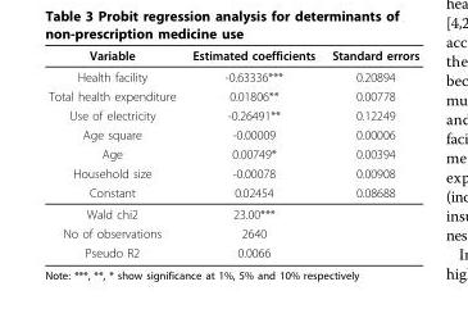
<table><thead><tr><td>Variable</td><td>Estimated coefficients</td><td>Standard errors</td></tr></thead><tbody><tr><td>Health facility</td><td>-0.63336***</td><td>0.20894</td></tr><tr><td>Total health expenditure</td><td>0.01806**</td><td>0.00778</td></tr><tr><td>Use of electricity</td><td>-0.26491**</td><td>0.12249</td></tr><tr><td>Age square</td><td>-0.00009</td><td>0.00006</td></tr><tr><td>Age</td><td>0.00749*</td><td>0.00394</td></tr><tr><td>Household size</td><td>-0.00078</td><td>0.00908</td></tr><tr><td>Constant</td><td>0.02454</td><td>0.08688</td></tr><tr><td>Wald chi2</td><td>23.00***</td><td></td></tr><tr><td>No of observations</td><td>2640</td><td></td></tr><tr><td>Pseudo R2</td><td>0.0066</td><td></td></tr></tbody></table>